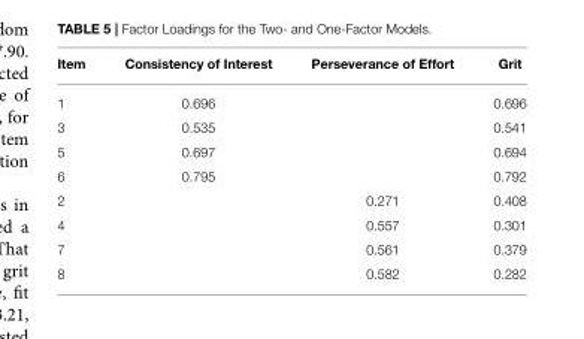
<table><thead><tr><td>Item</td><td>Consistency of Interest</td><td>Perseverance of Effort</td><td>Grit</td></tr></thead><tbody><tr><td>1</td><td>0.696</td><td></td><td>0.696</td></tr><tr><td>3</td><td>0.535</td><td></td><td>0.541</td></tr><tr><td>5</td><td>0.697</td><td></td><td>0.694</td></tr><tr><td>6</td><td>0.795</td><td></td><td>0.792</td></tr><tr><td>2</td><td></td><td>0.271</td><td>0.408</td></tr><tr><td>4</td><td></td><td>0.557</td><td>0.301</td></tr><tr><td>7</td><td></td><td>0.561</td><td>0.379</td></tr><tr><td>8</td><td></td><td>0.582</td><td>0.282</td></tr></tbody></table>